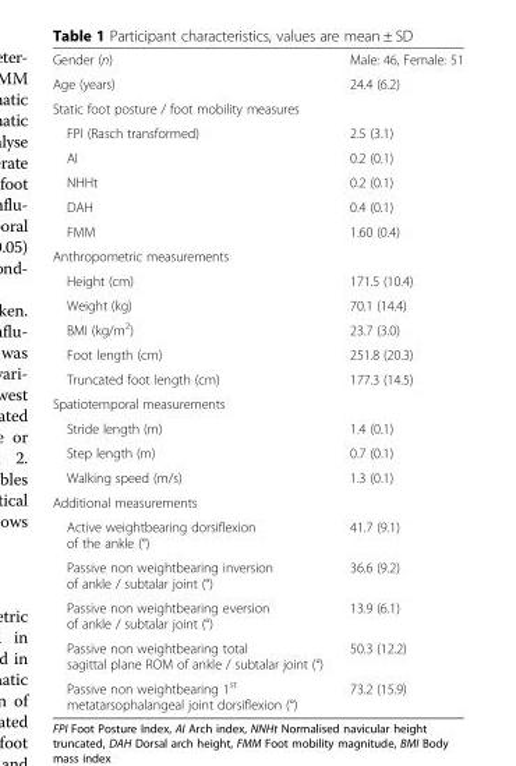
<table><tbody><tr><td>Gender (n)</td><td>Male: 46, Female: 51</td></tr><tr><td>Age (years)</td><td>24.4 (6.2)</td></tr><tr><td colspan="2">Static foot posture / foot mobility measures</td></tr><tr><td>FPI (Rasch transformed)</td><td>2.5 (3.1)</td></tr><tr><td>AI</td><td>0.2 (0.1)</td></tr><tr><td>NHHt</td><td>0.2 (0.1)</td></tr><tr><td>DAH</td><td>0.4 (0.1)</td></tr><tr><td>FMM</td><td>1.60 (0.4)</td></tr><tr><td colspan="2">Anthropometric measurements</td></tr><tr><td>Height (cm)</td><td>171.5 (10.4)</td></tr><tr><td>Weight (kg)</td><td>70.1 (14.4)</td></tr><tr><td>BMI (kg/m<sup>2</sup>)</td><td>23.7 (3.0)</td></tr><tr><td>Foot length (cm)</td><td>251.8 (20.3)</td></tr><tr><td>Truncated foot length (cm)</td><td>177.3 (14.5)</td></tr><tr><td colspan="2">Spatiotemporal measurements</td></tr><tr><td>Stride length (m)</td><td>1.4 (0.1)</td></tr><tr><td>Step length (m)</td><td>0.7 (0.1)</td></tr><tr><td>Walking speed (m/s)</td><td>1.3 (0.1)</td></tr><tr><td colspan="2">Additional measurements</td></tr><tr><td>Active weightbearing dorsiflexion of the ankle (°)</td><td>41.7 (9.1)</td></tr><tr><td>Passive non weightbearing inversion of ankle / subtalar joint (°)</td><td>36.6 (9.2)</td></tr><tr><td>Passive non weightbearing eversion of ankle / subtalar joint (°)</td><td>13.9 (6.1)</td></tr><tr><td>Passive non weightbearing total sagittal plane ROM of ankle / subtalar joint (°)</td><td>50.3 (12.2)</td></tr><tr><td>Passive non weightbearing 1<sup>st</sup> metatarsophalangeal joint dorsiflexion (°)</td><td>73.2 (15.9)</td></tr></tbody></table>